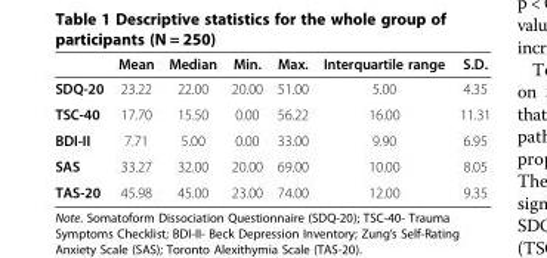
<table><thead><tr><td></td><td>Mean</td><td>Median</td><td>Min.</td><td>Max.</td><td>Interquartile range</td><td>S.D.</td></tr></thead><tbody><tr><td>SDQ-20</td><td>23.22</td><td>22.00</td><td>20.00</td><td>51.00</td><td>5.00</td><td>4.35</td></tr><tr><td>TSC-40</td><td>17.70</td><td>15.50</td><td>0.00</td><td>56.22</td><td>16.00</td><td>11.31</td></tr><tr><td>BDI-II</td><td>7.71</td><td>5.00</td><td>0.00</td><td>33.00</td><td>9.90</td><td>6.95</td></tr><tr><td>SAS</td><td>33.27</td><td>32.00</td><td>20.00</td><td>69.00</td><td>10.00</td><td>8.05</td></tr><tr><td>TAS-20</td><td>45.98</td><td>45.00</td><td>23.00</td><td>74.00</td><td>12.00</td><td>9.35</td></tr></tbody></table>